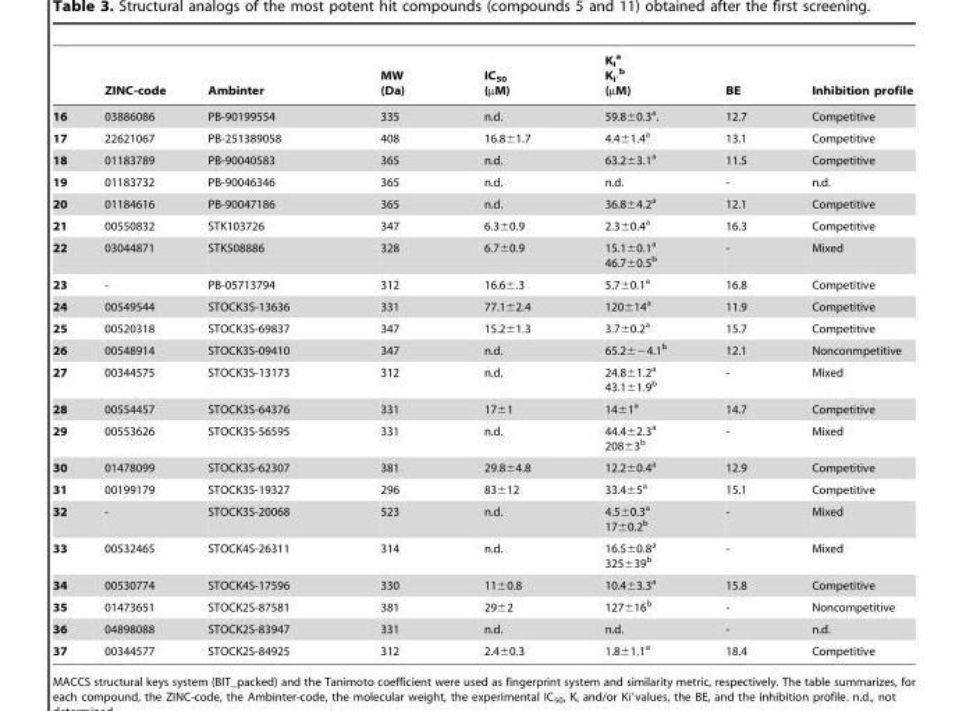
<table><thead><tr><td></td><td>ZINC-code</td><td>Ambinter</td><td>MW (Da)</td><td>IC<sub>50</sub> (µM)</td><td>K<sub>i</sub> <sup>a</sup> K<sub>i′</sub> <sup>b</sup> (µM)</td><td>BE</td><td>Inhibition profile</td></tr></thead><tbody><tr><td>16</td><td>03886086</td><td>PB-90199554</td><td>335</td><td>n.d.</td><td>59.8±0.3<sup>a</sup>.</td><td>12.7</td><td>Competitive</td></tr><tr><td>17</td><td>22621067</td><td>PB-251389058</td><td>408</td><td>16.8±1.7</td><td>4.4±1.4<sup>a</sup></td><td>13.1</td><td>Competitive</td></tr><tr><td>18</td><td>01183789</td><td>PB-90040583</td><td>365</td><td>n.d.</td><td>63.2±3.1<sup>a</sup></td><td>11.5</td><td>Competitive</td></tr><tr><td>19</td><td>01183732</td><td>PB-90046346</td><td>365</td><td>n.d.</td><td>n.d.</td><td>-</td><td>n.d.</td></tr><tr><td>20</td><td>01184616</td><td>PB-90047186</td><td>365</td><td>n.d.</td><td>36.8±4.2<sup>a</sup></td><td>12.1</td><td>Competitive</td></tr><tr><td>21</td><td>00550832</td><td>STK103726</td><td>347</td><td>6.3±0.9</td><td>2.3±0.4<sup>a</sup></td><td>16.3</td><td>Competitive</td></tr><tr><td>22</td><td>03044871</td><td>STK508886</td><td>328</td><td>6.7±0.9</td><td>15.1±0.1<sup>a</sup> 46.7±0.5<sup>b</sup></td><td>-</td><td>Mixed</td></tr><tr><td>23</td><td>-</td><td>PB-05713794</td><td>312</td><td>16.6±.3</td><td>5.7±0.1<sup>a</sup></td><td>16.8</td><td>Competitive</td></tr><tr><td>24</td><td>00549544</td><td>STOCK3S-13636</td><td>331</td><td>77.1±2.4</td><td>120±14<sup>a</sup></td><td>11.9</td><td>Competitive</td></tr><tr><td>25</td><td>00520318</td><td>STOCK3S-69837</td><td>347</td><td>15.2±1.3</td><td>3.7±0.2<sup>a</sup></td><td>15.7</td><td>Competitive</td></tr><tr><td>26</td><td>00548914</td><td>STOCK3S-09410</td><td>347</td><td>n.d.</td><td>65.2±−4.1<sup>b</sup></td><td>12.1</td><td>Nonconmpetitive</td></tr><tr><td>27</td><td>00344575</td><td>STOCK3S-13173</td><td>312</td><td>n.d.</td><td>24.8±1.2<sup>a</sup> 43.1±1.9<sup>b</sup></td><td>-</td><td>Mixed</td></tr><tr><td>28</td><td>00554457</td><td>STOCK3S-64376</td><td>331</td><td>17±1</td><td>14±1<sup>a</sup></td><td>14.7</td><td>Competitive</td></tr><tr><td>29</td><td>00553626</td><td>STOCK3S-56595</td><td>331</td><td>n.d.</td><td>44.4±2.3<sup>a</sup> 208±3<sup>b</sup></td><td>-</td><td>Mixed</td></tr><tr><td>30</td><td>01478099</td><td>STOCK3S-62307</td><td>381</td><td>29.8±4.8</td><td>12.2±0.4<sup>a</sup></td><td>12.9</td><td>Competitive</td></tr><tr><td>31</td><td>00199179</td><td>STOCK3S-19327</td><td>296</td><td>83±12</td><td>33.4±5<sup>a</sup></td><td>15.1</td><td>Competitive</td></tr><tr><td>32</td><td>-</td><td>STOCK3S-20068</td><td>523</td><td>n.d.</td><td>4.5±0.3<sup>a</sup> 17±0.2<sup>b</sup></td><td>-</td><td>Mixed</td></tr><tr><td>33</td><td>00532465</td><td>STOCK4S-26311</td><td>314</td><td>n.d.</td><td>16.5±0.8<sup>a</sup> 325±39<sup>b</sup></td><td>-</td><td>Mixed</td></tr><tr><td>34</td><td>00530774</td><td>STOCK4S-17596</td><td>330</td><td>11±0.8</td><td>10.4±3.3<sup>a</sup></td><td>15.8</td><td>Competitive</td></tr><tr><td>35</td><td>01473651</td><td>STOCK2S-87581</td><td>381</td><td>29±2</td><td>127±16<sup>b</sup></td><td>-</td><td>Noncompetitive</td></tr><tr><td>36</td><td>04898088</td><td>STOCK2S-83947</td><td>331</td><td>n.d.</td><td>n.d.</td><td>-</td><td>n.d.</td></tr><tr><td>37</td><td>00344577</td><td>STOCK2S-84925</td><td>312</td><td>2.4±0.3</td><td>1.8±1.1<sup>a</sup></td><td>18.4</td><td>Competitive</td></tr></tbody></table>